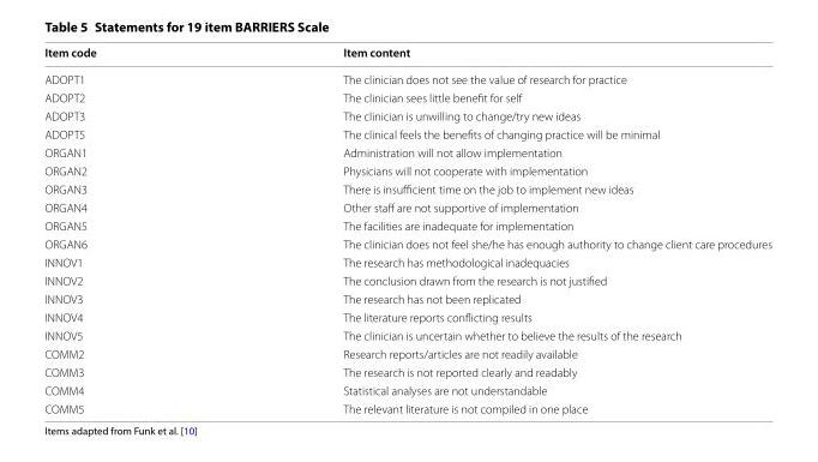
<table><thead><tr><td>Item code</td><td>Item content</td></tr></thead><tbody><tr><td>ADOPT1</td><td>The clinician does not see the value of research for practice</td></tr><tr><td>ADOPT2</td><td>The clinician sees little benefit for self</td></tr><tr><td>ADOPT3</td><td>The clinician is unwilling to change/try new ideas</td></tr><tr><td>ADOPT5</td><td>The clinical feels the benefits of changing practice will be minimal</td></tr><tr><td>ORGAN1</td><td>Administration will not allow implementation</td></tr><tr><td>ORGAN2</td><td>Physicians will not cooperate with implementation</td></tr><tr><td>ORGAN3</td><td>There is insufficient time on the job to implement new ideas</td></tr><tr><td>ORGAN4</td><td>Other staff are not supportive of implementation</td></tr><tr><td>ORGAN5</td><td>The facilities are inadequate for implementation</td></tr><tr><td>ORGAN6</td><td>The clinician does not feel she/he has enough authority to change client care procedures</td></tr><tr><td>INNOV1</td><td>The research has methodological inadequacies</td></tr><tr><td>INNOV2</td><td>The conclusion drawn from the research is not justified</td></tr><tr><td>INNOV3</td><td>The research has not been replicated</td></tr><tr><td>INNOV4</td><td>The literature reports conflicting results</td></tr><tr><td>INNOV5</td><td>The clinician is uncertain whether to believe the results of the research</td></tr><tr><td>COMM2</td><td>Research reports/articles are not readily available</td></tr><tr><td>COMM3</td><td>The research is not reported clearly and readably</td></tr><tr><td>COMM4</td><td>Statistical analyses are not understandable</td></tr><tr><td>COMM5</td><td>The relevant literature is not compiled in one place</td></tr></tbody></table>